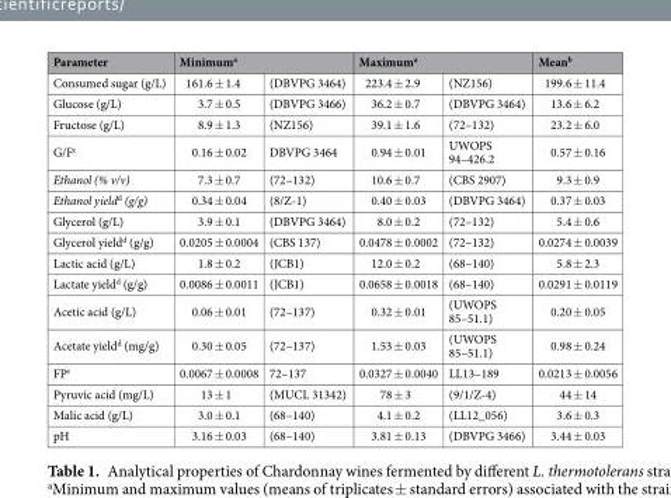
<table><thead><tr><td rowspan="2">Parameter Consumed sugar (g/L)</td><td colspan="2">Minimum<sup>a</sup></td><td colspan="2">Maximum<sup>a</sup></td><td rowspan="2">Mean<sup>b</sup> 199.6 ± 11.4</td></tr><tr><td>161.6 ± 1.4</td><td>(DBVPG 3464)</td><td>223.4 ± 2.9</td><td>(NZ156)</td></tr></thead><tbody><tr><td>Glucose (g/L)</td><td>3.7 ± 0.5</td><td>(DBVPG 3466)</td><td>36.2 ± 0.7</td><td>(DBVPG 3464)</td><td>13.6 ± 6.2</td></tr><tr><td>Fructose (g/L)</td><td>8.9 ± 1.3</td><td>(NZ156)</td><td>39.1 ± 1.6</td><td>(72–132)</td><td>23.2 ± 6.0</td></tr><tr><td>G/F<sup>c</sup></td><td>0.16 ± 0.02</td><td>DBVPG 3464</td><td>0.94 ± 0.01</td><td>UWOPS 94–426.2</td><td>0.57 ± 0.16</td></tr><tr><td>Ethanol (% v/v)</td><td>7.3 ± 0.7</td><td>(72–132)</td><td>10.6 ± 0.7</td><td>(CBS 2907)</td><td>9.3 ± 0.9</td></tr><tr><td>Ethanol yield<sup>d</sup> (g/g)</td><td>0.34 ± 0.04</td><td>(8/Z-1)</td><td>0.40 ± 0.03</td><td>(DBVPG 3464)</td><td>0.37 ± 0.03</td></tr><tr><td>Glycerol (g/L)</td><td>3.9 ± 0.1</td><td>(DBVPG 3464)</td><td>8.0 ± 0.2</td><td>(72–132)</td><td>5.4 ± 0.6</td></tr><tr><td>Glycerol yield<sup>d</sup> (g/g)</td><td>0.0205 ± 0.0004</td><td>(CBS 137)</td><td>0.0478 ± 0.0002</td><td>(72–132)</td><td>0.0274 ± 0.0039</td></tr><tr><td>Lactic acid (g/L)</td><td>1.8 ± 0.2</td><td>(JCB1)</td><td>12.0 ± 0.2</td><td>(68–140)</td><td>5.8 ± 2.3</td></tr><tr><td>Lactate yield<sup>d</sup> (g/g)</td><td>0.0086 ± 0.0011</td><td>(JCB1)</td><td>0.0658 ± 0.0018</td><td>(68–140)</td><td>0.0291 ± 0.0119</td></tr><tr><td>Acetic acid (g/L)</td><td>0.06 ± 0.01</td><td>(72–137)</td><td>0.32 ± 0.01</td><td>(UWOPS 85–51.1)</td><td>0.20 ± 0.05</td></tr><tr><td>Acetate yield<sup>d</sup> (mg/g)</td><td>0.30 ± 0.05</td><td>(72–137)</td><td>1.53 ± 0.03</td><td>(UWOPS 85–51.1)</td><td>0.98 ± 0.24</td></tr><tr><td>FP<sup>e</sup></td><td>0.0067 ± 0.0008</td><td>72–137</td><td>0.0327 ± 0.0040</td><td>LL13–189</td><td>0.0213 ± 0.0056</td></tr><tr><td>Pyruvic acid (mg/L)</td><td>13 ± 1</td><td>(MUCL 31342)</td><td>78 ± 3</td><td>(9/1/Z-4)</td><td>44 ± 14</td></tr><tr><td>Malic acid (g/L)</td><td>3.0 ± 0.1</td><td>(68–140)</td><td>4.1 ± 0.2</td><td>(LL12_056)</td><td>3.6 ± 0.3</td></tr><tr><td>pH</td><td>3.16 ± 0.03</td><td>(68–140)</td><td>3.81 ± 0.13</td><td>(DBVPG 3466)</td><td>3.44 ± 0.03</td></tr></tbody></table>